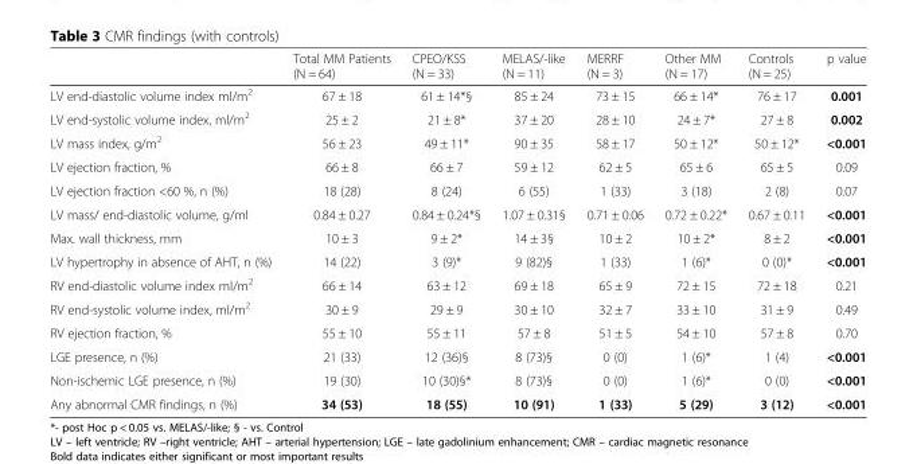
<table><thead><tr><td></td><td>Total MM Patients (N = 64)</td><td>CPEO/KSS (N = 33)</td><td>MELAS/-like (N = 11)</td><td>MERRF (N = 3)</td><td>Other MM (N = 17)</td><td>Controls (N = 25)</td><td>p value</td></tr></thead><tbody><tr><td>LV end-diastolic volume index ml/m<sup>2</sup></td><td>67 ± 18</td><td>61 ± 14*§</td><td>85 ± 24</td><td>73 ± 15</td><td>66 ± 14*</td><td>76 ± 17</td><td>0.001</td></tr><tr><td>LV end-systolic volume index, ml/m<sup>2</sup></td><td>25 ± 2</td><td>21 ± 8*</td><td>37 ± 20</td><td>28 ± 10</td><td>24 ± 7*</td><td>27 ± 8</td><td>0.002</td></tr><tr><td>LV mass index, g/m<sup>2</sup></td><td>56 ± 23</td><td>49 ± 11*</td><td>90 ± 35</td><td>58 ± 17</td><td>50 ± 12*</td><td>50 ± 12*</td><td>&lt;0.001</td></tr><tr><td>LV ejection fraction, %</td><td>66 ± 8</td><td>66 ± 7</td><td>59 ± 12</td><td>62 ± 5</td><td>65 ± 6</td><td>65 ± 5</td><td>0.09</td></tr><tr><td>LV ejection fraction &lt;60 %, n (%)</td><td>18 (28)</td><td>8 (24)</td><td>6 (55)</td><td>1 (33)</td><td>3 (18)</td><td>2 (8)</td><td>0.07</td></tr><tr><td>LV mass/ end-diastolic volume, g/ml</td><td>0.84 ± 0.27</td><td>0.84 ± 0.24*§</td><td>1.07 ± 0.31§</td><td>0.71 ± 0.06</td><td>0.72 ± 0.22*</td><td>0.67 ± 0.11</td><td>&lt;0.001</td></tr><tr><td>Max. wall thickness, mm</td><td>10 ± 3</td><td>9 ± 2*</td><td>14 ± 3§</td><td>10 ± 2</td><td>10 ± 2*</td><td>8 ± 2</td><td>&lt;0.001</td></tr><tr><td>LV hypertrophy in absence of AHT, n (%)</td><td>14 (22)</td><td>3 (9)*</td><td>9 (82)§</td><td>1 (33)</td><td>1 (6)*</td><td>0 (0)*</td><td>&lt;0.001</td></tr><tr><td>RV end-diastolic volume index ml/m<sup>2</sup></td><td>66 ± 14</td><td>63 ± 12</td><td>69 ± 18</td><td>65 ± 9</td><td>72 ± 15</td><td>72 ± 18</td><td>0.21</td></tr><tr><td>RV end-systolic volume index, ml/m<sup>2</sup></td><td>30 ± 9</td><td>29 ± 9</td><td>30 ± 10</td><td>32 ± 7</td><td>33 ± 10</td><td>31 ± 9</td><td>0.49</td></tr><tr><td>RV ejection fraction, %</td><td>55 ± 10</td><td>55 ± 11</td><td>57 ± 8</td><td>51 ± 5</td><td>54 ± 10</td><td>57 ± 8</td><td>0.70</td></tr><tr><td>LGE presence, n (%)</td><td>21 (33)</td><td>12 (36)§</td><td>8 (73)§</td><td>0 (0)</td><td>1 (6)*</td><td>1 (4)</td><td>&lt;0.001</td></tr><tr><td>Non-ischemic LGE presence, n (%)</td><td>19 (30)</td><td>10 (30)§*</td><td>8 (73)§</td><td>0 (0)</td><td>1 (6)*</td><td>0 (0)</td><td>&lt;0.001</td></tr><tr><td>Any abnormal CMR findings, n (%)</td><td>34 (53)</td><td>18 (55)</td><td>10 (91)</td><td>1 (33)</td><td>5 (29)</td><td>3 (12)</td><td>&lt;0.001</td></tr></tbody></table>